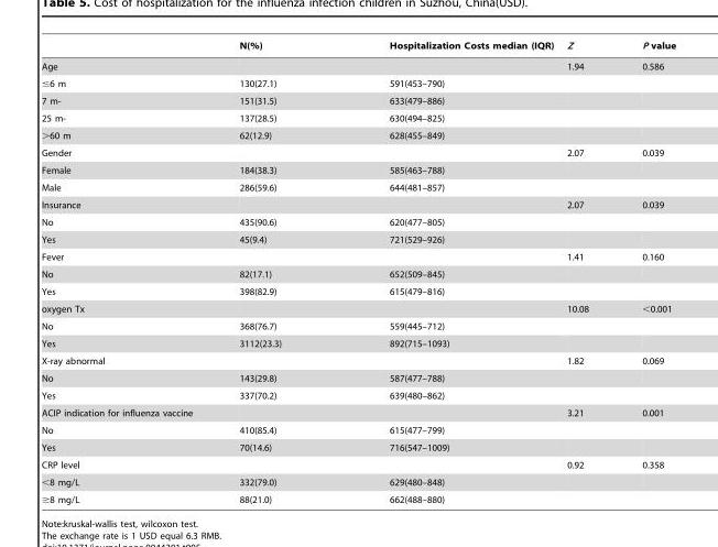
<table><thead><tr><td></td><td>N(%)</td><td>Hospitalization Costs median (IQR)</td><td>Z</td><td>P value</td></tr></thead><tbody><tr><td>Age</td><td></td><td></td><td>1.94</td><td>0.586</td></tr><tr><td>≤6 m</td><td>130(27.1)</td><td>591(453–790)</td><td></td><td></td></tr><tr><td>7 m-</td><td>151(31.5)</td><td>633(479–886)</td><td></td><td></td></tr><tr><td>25 m-</td><td>137(28.5)</td><td>630(494–825)</td><td></td><td></td></tr><tr><td>&gt;60 m</td><td>62(12.9)</td><td>628(455–849)</td><td></td><td></td></tr><tr><td>Gender</td><td></td><td></td><td>2.07</td><td>0.039</td></tr><tr><td>Female</td><td>184(38.3)</td><td>585(463–788)</td><td></td><td></td></tr><tr><td>Male</td><td>286(59.6)</td><td>644(481–857)</td><td></td><td></td></tr><tr><td>Insurance</td><td></td><td></td><td>2.07</td><td>0.039</td></tr><tr><td>No</td><td>435(90.6)</td><td>620(477–805)</td><td></td><td></td></tr><tr><td>Yes</td><td>45(9.4)</td><td>721(529–926)</td><td></td><td></td></tr><tr><td>Fever</td><td></td><td></td><td>1.41</td><td>0.160</td></tr><tr><td>No</td><td>82(17.1)</td><td>652(509–845)</td><td></td><td></td></tr><tr><td>Yes</td><td>398(82.9)</td><td>615(479–816)</td><td></td><td></td></tr><tr><td>oxygen Tx</td><td></td><td></td><td>10.08</td><td>&lt;0.001</td></tr><tr><td>No</td><td>368(76.7)</td><td>559(445–712)</td><td></td><td></td></tr><tr><td>Yes</td><td>3112(23.3)</td><td>892(715–1093)</td><td></td><td></td></tr><tr><td>X-ray abnormal</td><td></td><td></td><td>1.82</td><td>0.069</td></tr><tr><td>No</td><td>143(29.8)</td><td>587(477–788)</td><td></td><td></td></tr><tr><td>Yes</td><td>337(70.2)</td><td>639(480–862)</td><td></td><td></td></tr><tr><td>ACIP indication for influenza vaccine</td><td></td><td></td><td>3.21</td><td>0.001</td></tr><tr><td>No</td><td>410(85.4)</td><td>615(477–799)</td><td></td><td></td></tr><tr><td>Yes</td><td>70(14.6)</td><td>716(547–1009)</td><td></td><td></td></tr><tr><td>CRP level</td><td></td><td></td><td>0.92</td><td>0.358</td></tr><tr><td>&lt;8 mg/L</td><td>332(79.0)</td><td>629(480–848)</td><td></td><td></td></tr><tr><td>≥8 mg/L</td><td>88(21.0)</td><td>662(488–880)</td><td></td><td></td></tr></tbody></table>